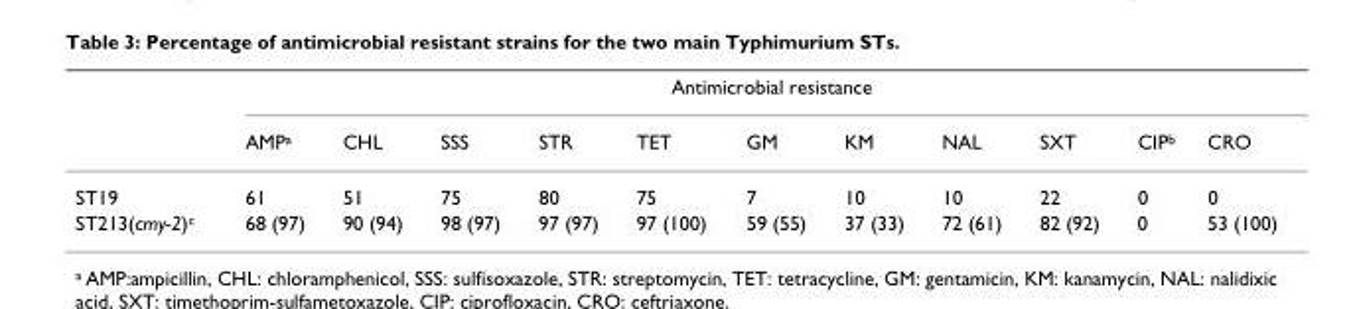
<table><thead><tr><td rowspan="2"></td><td colspan="11">Antimicrobial resistance</td></tr><tr><td>AMP<sup>a</sup></td><td>CHL</td><td>SSS</td><td>STR</td><td>TET</td><td>GM</td><td>KM</td><td>NAL</td><td>SXT</td><td>CIP<sup>b</sup></td><td>CRO</td></tr></thead><tbody><tr><td>ST19</td><td>61</td><td>51</td><td>75</td><td>80</td><td>75</td><td>7</td><td>10</td><td>10</td><td>22</td><td>0</td><td>0</td></tr><tr><td>ST213(cmy-2)<sup>c</sup></td><td>68 (97)</td><td>90 (94)</td><td>98 (97)</td><td>97 (97)</td><td>97 (100)</td><td>59 (55)</td><td>37 (33)</td><td>72 (61)</td><td>82 (92)</td><td>0</td><td>53 (100)</td></tr></tbody></table>